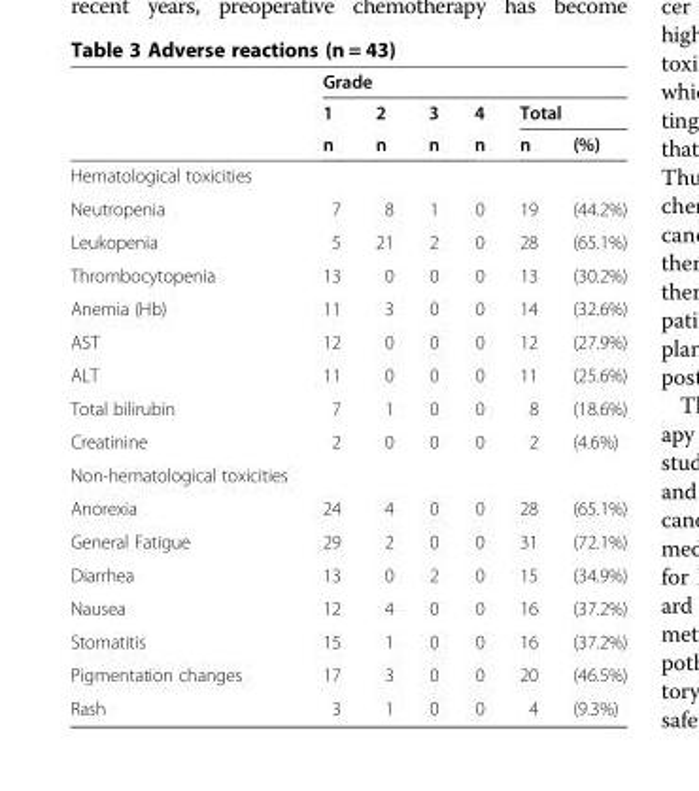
<table><thead><tr><td rowspan="3"></td><td colspan="6">Grade</td></tr><tr><td rowspan="2">1 n</td><td rowspan="2">2 n</td><td rowspan="2">3 n</td><td rowspan="2">4 n</td><td colspan="2">Total</td></tr><tr><td>n</td><td>(%)</td></tr></thead><tbody><tr><td colspan="7">Hematological toxicities</td></tr><tr><td>Neutropenia</td><td>7</td><td>8</td><td>1</td><td>0</td><td>19</td><td>(44.2%)</td></tr><tr><td>Leukopenia</td><td>5</td><td>21</td><td>2</td><td>0</td><td>28</td><td>(65.1%)</td></tr><tr><td>Thrombocytopenia</td><td>13</td><td>0</td><td>0</td><td>0</td><td>13</td><td>(30.2%)</td></tr><tr><td>Anemia (Hb)</td><td>11</td><td>3</td><td>0</td><td>0</td><td>14</td><td>(32.6%)</td></tr><tr><td>AST</td><td>12</td><td>0</td><td>0</td><td>0</td><td>12</td><td>(27.9%)</td></tr><tr><td>ALT</td><td>11</td><td>0</td><td>0</td><td>0</td><td>11</td><td>(25.6%)</td></tr><tr><td>Total bilirubin</td><td>7</td><td>1</td><td>0</td><td>0</td><td>8</td><td>(18.6%)</td></tr><tr><td>Creatinine</td><td>2</td><td>0</td><td>0</td><td>0</td><td>2</td><td>(4.6%)</td></tr><tr><td colspan="7">Non-hematological toxicities</td></tr><tr><td>Anorexia</td><td>24</td><td>4</td><td>0</td><td>0</td><td>28</td><td>(65.1%)</td></tr><tr><td>General Fatigue</td><td>29</td><td>2</td><td>0</td><td>0</td><td>31</td><td>(72.1%)</td></tr><tr><td>Diarrhea</td><td>13</td><td>0</td><td>2</td><td>0</td><td>15</td><td>(34.9%)</td></tr><tr><td>Nausea</td><td>12</td><td>4</td><td>0</td><td>0</td><td>16</td><td>(37.2%)</td></tr><tr><td>Stomatitis</td><td>15</td><td>1</td><td>0</td><td>0</td><td>16</td><td>(37.2%)</td></tr><tr><td>Pigmentation changes</td><td>17</td><td>3</td><td>0</td><td>0</td><td>20</td><td>(46.5%)</td></tr><tr><td>Rash</td><td>3</td><td>1</td><td>0</td><td>0</td><td>4</td><td>(9.3%)</td></tr></tbody></table>